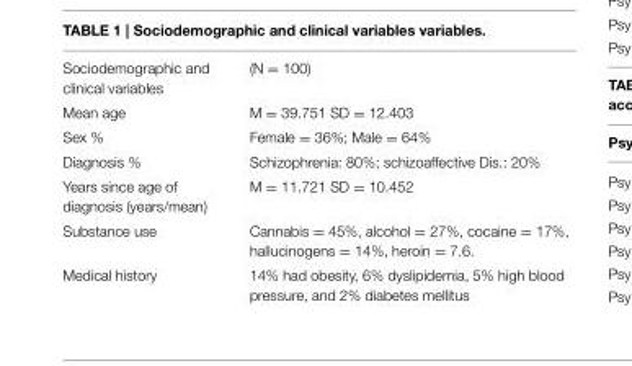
<table><tbody><tr><td>Sociodemographic and clinical variables</td><td>(N = 100)</td></tr><tr><td>Mean age</td><td>M = 39.751 SD = 12.403</td></tr><tr><td>Sex %</td><td>Female = 36%; Male = 64%</td></tr><tr><td>Diagnosis %</td><td>Schizophrenia: 80%; schizoaffective Dis.: 20%</td></tr><tr><td>Years since age of diagnosis (years/mean)</td><td>M = 11.721 SD = 10.452</td></tr><tr><td>Substance use</td><td>Cannabis = 45%, alcohol = 27%, cocaine = 17%, hallucinogens = 14%, heroin = 7.6.</td></tr><tr><td>Medical history</td><td>14% had obesity, 6% dyslipidemia, 5% high blood pressure, and 2% diabetes mellitus</td></tr></tbody></table>